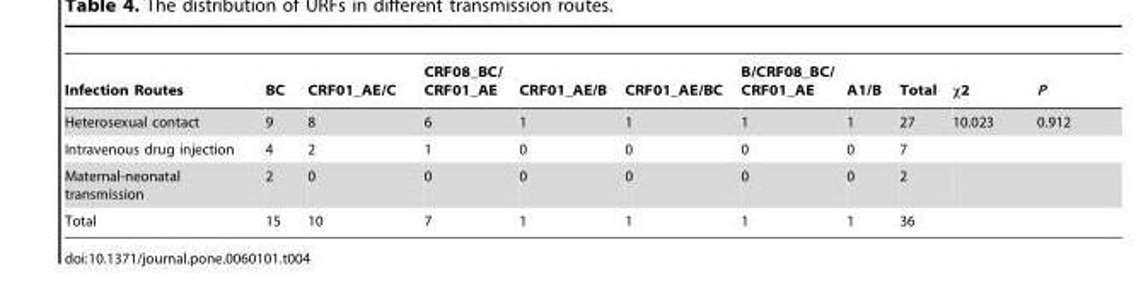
<table><thead><tr><td>Infection Routes</td><td>BC</td><td>CRF01_AE/C</td><td>CRF08_BC/ CRF01_AE</td><td>CRF01_AE/B</td><td>CRF01_AE/BC</td><td>B/CRF08_BC/ CRF01_AE</td><td>A1/B</td><td>Total</td><td>χ2</td><td>P</td></tr></thead><tbody><tr><td>Heterosexual contact</td><td>9</td><td>8</td><td>6</td><td>1</td><td>1</td><td>1</td><td>1</td><td>27</td><td>10.023</td><td>0.912</td></tr><tr><td>Intravenous drug injection</td><td>4</td><td>2</td><td>1</td><td>0</td><td>0</td><td>0</td><td>0</td><td>7</td><td></td><td></td></tr><tr><td>Maternal-neonatal transmission</td><td>2</td><td>0</td><td>0</td><td>0</td><td>0</td><td>0</td><td>0</td><td>2</td><td></td><td></td></tr><tr><td>Total</td><td>15</td><td>10</td><td>7</td><td>1</td><td>1</td><td>1</td><td>1</td><td>36</td><td></td><td></td></tr></tbody></table>